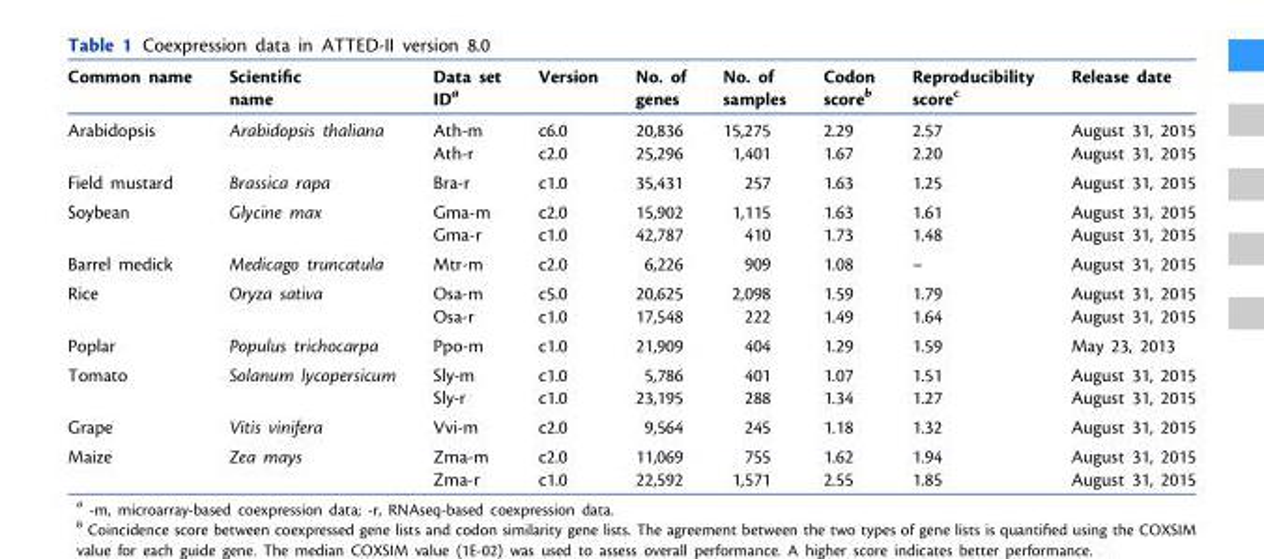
<table><thead><tr><td>Common name</td><td>Scientific name</td><td>Data set ID<sup>a</sup></td><td>Version</td><td>No. of genes</td><td>No. of samples</td><td>Codon score<sup>b</sup></td><td>Reproducibility score<sup>c</sup></td><td>Release date</td></tr></thead><tbody><tr><td rowspan="2">Arabidopsis</td><td rowspan="2">Arabidopsis thaliana</td><td>Ath-m</td><td>c6.0</td><td>20,836</td><td>15,275</td><td>2.29</td><td>2.57</td><td>August 31, 2015</td></tr><tr><td>Ath-r</td><td>c2.0</td><td>25,296</td><td>1,401</td><td>1.67</td><td>2.20</td><td>August 31, 2015</td></tr><tr><td>Field mustard</td><td>Brassica rapa</td><td>Bra-r</td><td>c1.0</td><td>35,431</td><td>257</td><td>1.63</td><td>1.25</td><td>August 31, 2015</td></tr><tr><td rowspan="2">Soybean</td><td rowspan="2">Glycine max</td><td>Gma-m</td><td>c2.0</td><td>15,902</td><td>1,115</td><td>1.63</td><td>1.61</td><td>August 31, 2015</td></tr><tr><td>Gma-r</td><td>c1.0</td><td>42,787</td><td>410</td><td>1.73</td><td>1.48</td><td>August 31, 2015</td></tr><tr><td>Barrel medick</td><td>Medicago truncatula</td><td>Mtr-m</td><td>c2.0</td><td>6,226</td><td>909</td><td>1.08</td><td>–</td><td>August 31, 2015</td></tr><tr><td rowspan="2">Rice</td><td rowspan="2">Oryza sativa</td><td>Osa-m</td><td>c5.0</td><td>20,625</td><td>2,098</td><td>1.59</td><td>1.79</td><td>August 31, 2015</td></tr><tr><td>Osa-r</td><td>c1.0</td><td>17,548</td><td>222</td><td>1.49</td><td>1.64</td><td>August 31, 2015</td></tr><tr><td>Poplar</td><td>Populus trichocarpa</td><td>Ppo-m</td><td>c1.0</td><td>21,909</td><td>404</td><td>1.29</td><td>1.59</td><td>May 23, 2013</td></tr><tr><td rowspan="2">Tomato</td><td rowspan="2">Solanum lycopersicum</td><td>Sly-m</td><td>c1.0</td><td>5,786</td><td>401</td><td>1.07</td><td>1.51</td><td>August 31, 2015</td></tr><tr><td>Sly-r</td><td>c1.0</td><td>23,195</td><td>288</td><td>1.34</td><td>1.27</td><td>August 31, 2015</td></tr><tr><td>Grape</td><td>Vitis vinifera</td><td>Vvi-m</td><td>c2.0</td><td>9,564</td><td>245</td><td>1.18</td><td>1.32</td><td>August 31, 2015</td></tr><tr><td rowspan="2">Maize</td><td rowspan="2">Zea mays</td><td>Zma-m</td><td>c2.0</td><td>11,069</td><td>755</td><td>1.62</td><td>1.94</td><td>August 31, 2015</td></tr><tr><td>Zma-r</td><td>c1.0</td><td>22,592</td><td>1,571</td><td>2.55</td><td>1.85</td><td>August 31, 2015</td></tr></tbody></table>